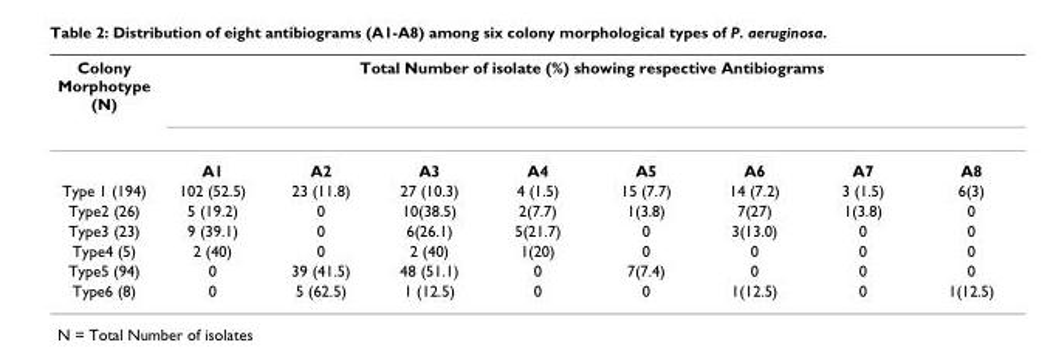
<table><thead><tr><td rowspan="2">Colony Morphotype (N)</td><td colspan="8">Total Number of isolate (%) showing respective Antibiograms</td></tr><tr><td>A1</td><td>A2</td><td>A3</td><td>A4</td><td>A5</td><td>A6</td><td>A7</td><td>A8</td></tr></thead><tbody><tr><td>Type 1 (194)</td><td>102 (52.5)</td><td>23 (11.8)</td><td>27 (10.3)</td><td>4 (1.5)</td><td>15 (7.7)</td><td>14 (7.2)</td><td>3 (1.5)</td><td>6(3)</td></tr><tr><td>Type2 (26)</td><td>5 (19.2)</td><td>0</td><td>10(38.5)</td><td>2(7.7)</td><td>1(3.8)</td><td>7(27)</td><td>1(3.8)</td><td>0</td></tr><tr><td>Type3 (23)</td><td>9 (39.1)</td><td>0</td><td>6(26.1)</td><td>5(21.7)</td><td>0</td><td>3(13.0)</td><td>0</td><td>0</td></tr><tr><td>Type4 (5)</td><td>2 (40)</td><td>0</td><td>2 (40)</td><td>1(20)</td><td>0</td><td>0</td><td>0</td><td>0</td></tr><tr><td>Type5 (94)</td><td>0</td><td>39 (41.5)</td><td>48 (51.1)</td><td>0</td><td>7(7.4)</td><td>0</td><td>0</td><td>0</td></tr><tr><td>Type6 (8)</td><td>0</td><td>5 (62.5)</td><td>1 (12.5)</td><td>0</td><td>0</td><td>1(12.5)</td><td>0</td><td>1(12.5)</td></tr></tbody></table>